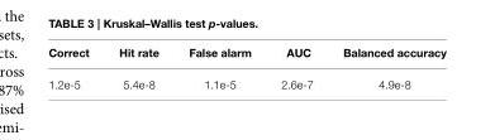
<table><thead><tr><td>Correct</td><td>Hit rate</td><td>False alarm</td><td>AUC</td><td>Balanced accuracy</td></tr></thead><tbody><tr><td>1.2e-5</td><td>5.4e-8</td><td>1.1e-5</td><td>2.6e-7</td><td>4.9e-8</td></tr></tbody></table>